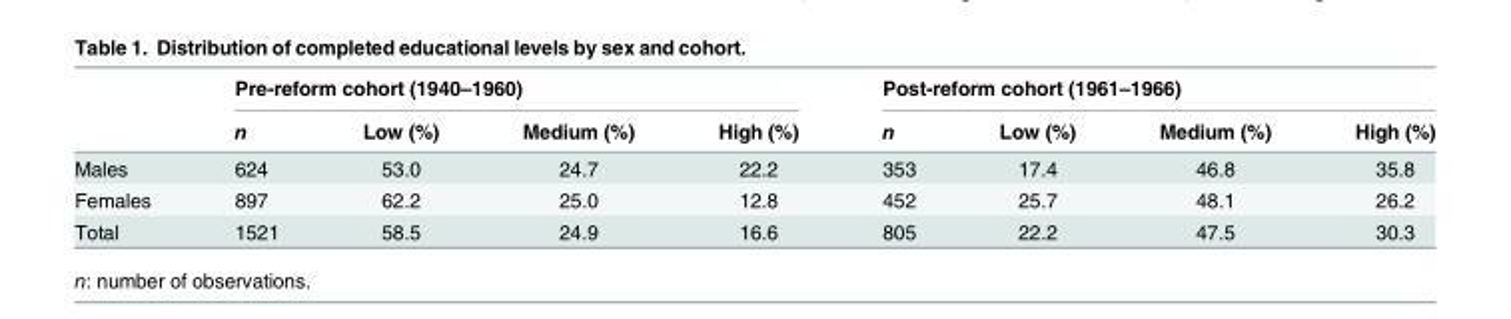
<table><thead><tr><td rowspan="2"></td><td colspan="4">Pre-reform cohort (1940–1960)</td><td colspan="4">Post-reform cohort (1961–1966)</td></tr><tr><td>n</td><td>Low (%)</td><td>Medium (%)</td><td>High (%)</td><td>n</td><td>Low (%)</td><td>Medium (%)</td><td>High (%)</td></tr></thead><tbody><tr><td>Males</td><td>624</td><td>53.0</td><td>24.7</td><td>22.2</td><td>353</td><td>17.4</td><td>46.8</td><td>35.8</td></tr><tr><td>Females</td><td>897</td><td>62.2</td><td>25.0</td><td>12.8</td><td>452</td><td>25.7</td><td>48.1</td><td>26.2</td></tr><tr><td>Total</td><td>1521</td><td>58.5</td><td>24.9</td><td>16.6</td><td>805</td><td>22.2</td><td>47.5</td><td>30.3</td></tr></tbody></table>